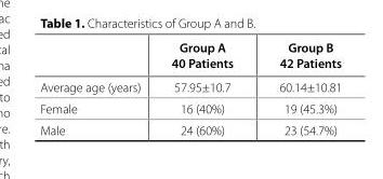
<table><thead><tr><td></td><td>Group A 40 Patients</td><td>Group B 42 Patients</td></tr></thead><tbody><tr><td>Average age (years)</td><td>57.95±10.7</td><td>60.14±10.81</td></tr><tr><td>Female</td><td>16 (40%)</td><td>19 (45.3%)</td></tr><tr><td>Male</td><td>24 (60%)</td><td>23 (54.7%)</td></tr></tbody></table>